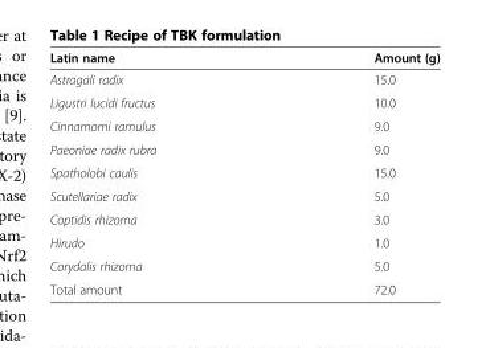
<table><thead><tr><td>Latin name</td><td>Amount (g)</td></tr></thead><tbody><tr><td>Astragali radix</td><td>15.0</td></tr><tr><td>Ligustri lucidi fructus</td><td>10.0</td></tr><tr><td>Cinnamomi ramulus</td><td>9.0</td></tr><tr><td>Paeoniae radix rubra</td><td>9.0</td></tr><tr><td>Spatholobi caulis</td><td>15.0</td></tr><tr><td>Scutellariae radix</td><td>5.0</td></tr><tr><td>Coptidis rhizoma</td><td>3.0</td></tr><tr><td>Hirudo</td><td>1.0</td></tr><tr><td>Corydalis rhizoma</td><td>5.0</td></tr><tr><td>Total amount</td><td>72.0</td></tr></tbody></table>